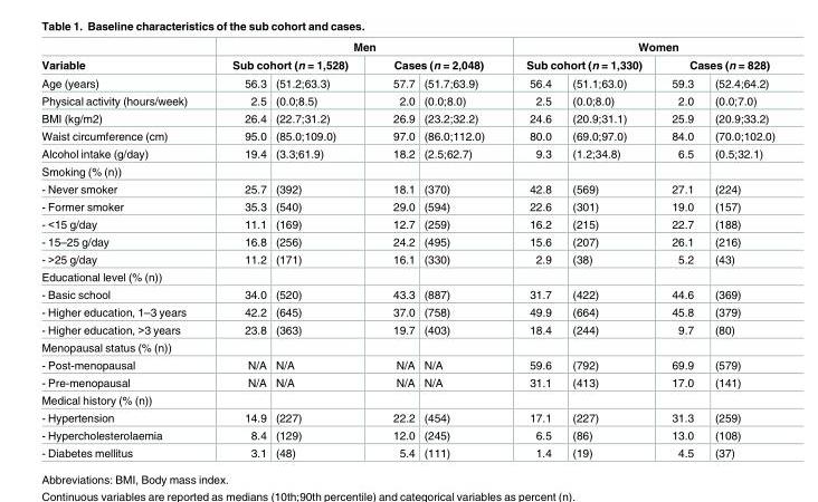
<table><thead><tr><td rowspan="3">Variable Age (years)</td><td colspan="4">Men</td><td colspan="4">Women</td></tr><tr><td colspan="2">Sub cohort (n = 1,528)</td><td colspan="2">Cases (n = 2,048)</td><td colspan="2">Sub cohort (n = 1,330)</td><td colspan="2">Cases (n = 828)</td></tr><tr><td>56.3</td><td>(51.2;63.3)</td><td>57.7</td><td>(51.7;63.9)</td><td>56.4</td><td>(51.1;63.0)</td><td>59.3</td><td>(52.4;64.2)</td></tr></thead><tbody><tr><td>Physical activity (hours/week)</td><td>2.5</td><td>(0.0;8.5)</td><td>2.0</td><td>(0.0;8.0)</td><td>2.5</td><td>(0.0;8.0)</td><td>2.0</td><td>(0.0;7.0)</td></tr><tr><td>BMI (kg/m2)</td><td>26.4</td><td>(22.7;31.2)</td><td>26.9</td><td>(23.2;32.2)</td><td>24.6</td><td>(20.9;31.1)</td><td>25.9</td><td>(20.9;33.2)</td></tr><tr><td>Waist circumference (cm)</td><td>95.0</td><td>(85.0;109.0)</td><td>97.0</td><td>(86.0;112.0)</td><td>80.0</td><td>(69.0;97.0)</td><td>84.0</td><td>(70.0;102.0)</td></tr><tr><td>Alcohol intake (g/day)</td><td>19.4</td><td>(3.3;61.9)</td><td>18.2</td><td>(2.5;62.7)</td><td>9.3</td><td>(1.2;34.8)</td><td>6.5</td><td>(0.5;32.1)</td></tr><tr><td colspan="9">Smoking (% (n))</td></tr><tr><td>- Never smoker</td><td>25.7</td><td>(392)</td><td>18.1</td><td>(370)</td><td>42.8</td><td>(569)</td><td>27.1</td><td>(224)</td></tr><tr><td>- Former smoker</td><td>35.3</td><td>(540)</td><td>29.0</td><td>(594)</td><td>22.6</td><td>(301)</td><td>19.0</td><td>(157)</td></tr><tr><td>- &lt;15 g/day</td><td>11.1</td><td>(169)</td><td>12.7</td><td>(259)</td><td>16.2</td><td>(215)</td><td>22.7</td><td>(188)</td></tr><tr><td>- 15–25 g/day</td><td>16.8</td><td>(256)</td><td>24.2</td><td>(495)</td><td>15.6</td><td>(207)</td><td>26.1</td><td>(216)</td></tr><tr><td>- &gt;25 g/day</td><td>11.2</td><td>(171)</td><td>16.1</td><td>(330)</td><td>2.9</td><td>(38)</td><td>5.2</td><td>(43)</td></tr><tr><td colspan="9">Educational level (% (n))</td></tr><tr><td>- Basic school</td><td>34.0</td><td>(520)</td><td>43.3</td><td>(887)</td><td>31.7</td><td>(422)</td><td>44.6</td><td>(369)</td></tr><tr><td>- Higher education, 1–3 years</td><td>42.2</td><td>(645)</td><td>37.0</td><td>(758)</td><td>49.9</td><td>(664)</td><td>45.8</td><td>(379)</td></tr><tr><td>- Higher education, &gt;3 years</td><td>23.8</td><td>(363)</td><td>19.7</td><td>(403)</td><td>18.4</td><td>(244)</td><td>9.7</td><td>(80)</td></tr><tr><td colspan="9">Menopausal status (% (n))</td></tr><tr><td>- Post-menopausal</td><td>N/A</td><td>N/A</td><td>N/A</td><td>N/A</td><td>59.6</td><td>(792)</td><td>69.9</td><td>(579)</td></tr><tr><td>- Pre-menopausal</td><td>N/A</td><td>N/A</td><td>N/A</td><td>N/A</td><td>31.1</td><td>(413)</td><td>17.0</td><td>(141)</td></tr><tr><td colspan="9">Medical history (% (n))</td></tr><tr><td>- Hypertension</td><td>14.9</td><td>(227)</td><td>22.2</td><td>(454)</td><td>17.1</td><td>(227)</td><td>31.3</td><td>(259)</td></tr><tr><td>- Hypercholesterolaemia</td><td>8.4</td><td>(129)</td><td>12.0</td><td>(245)</td><td>6.5</td><td>(86)</td><td>13.0</td><td>(108)</td></tr><tr><td>- Diabetes mellitus</td><td>3.1</td><td>(48)</td><td>5.4</td><td>(111)</td><td>1.4</td><td>(19)</td><td>4.5</td><td>(37)</td></tr></tbody></table>